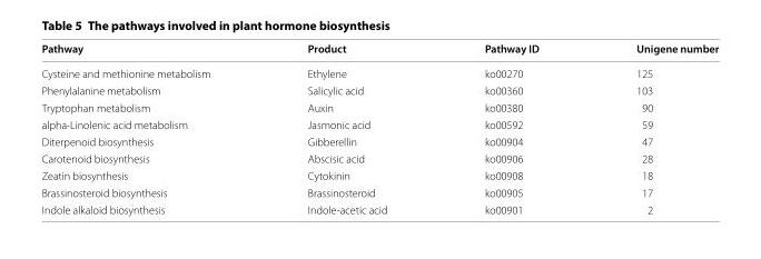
<table><thead><tr><td>Pathway</td><td>Product</td><td>Pathway ID</td><td>Unigene number</td></tr></thead><tbody><tr><td>Cysteine and methionine metabolism</td><td>Ethylene</td><td>ko00270</td><td>125</td></tr><tr><td>Phenylalanine metabolism</td><td>Salicylic acid</td><td>ko00360</td><td>103</td></tr><tr><td>Tryptophan metabolism</td><td>Auxin</td><td>ko00380</td><td>90</td></tr><tr><td>alpha-Linolenic acid metabolism</td><td>Jasmonic acid</td><td>ko00592</td><td>59</td></tr><tr><td>Diterpenoid biosynthesis</td><td>Gibberellin</td><td>ko00904</td><td>47</td></tr><tr><td>Carotenoid biosynthesis</td><td>Abscisic acid</td><td>ko00906</td><td>28</td></tr><tr><td>Zeatin biosynthesis</td><td>Cytokinin</td><td>ko00908</td><td>18</td></tr><tr><td>Brassinosteroid biosynthesis</td><td>Brassinosteroid</td><td>ko00905</td><td>17</td></tr><tr><td>Indole alkaloid biosynthesis</td><td>Indole-acetic acid</td><td>ko00901</td><td>2</td></tr></tbody></table>